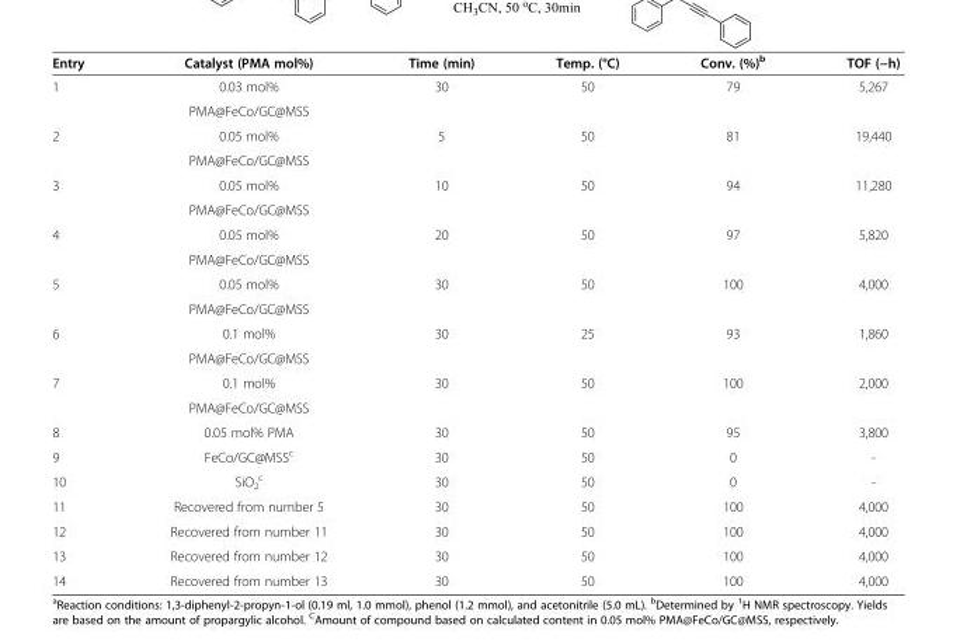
<table><thead><tr><td>Entry</td><td>Catalyst (PMA mol%)</td><td>Time (min)</td><td>Temp. (°C)</td><td>Conv. (%)<sup>b</sup></td><td>TOF (−h)</td></tr></thead><tbody><tr><td rowspan="2">1</td><td>0.03 mol%</td><td rowspan="2">30</td><td rowspan="2">50</td><td rowspan="2">79</td><td rowspan="2">5,267</td></tr><tr><td>PMA@FeCo/GC@MSS</td></tr><tr><td rowspan="2">2</td><td>0.05 mol%</td><td rowspan="2">5</td><td rowspan="2">50</td><td rowspan="2">81</td><td rowspan="2">19,440</td></tr><tr><td>PMA@FeCo/GC@MSS</td></tr><tr><td rowspan="2">3</td><td>0.05 mol%</td><td rowspan="2">10</td><td rowspan="2">50</td><td rowspan="2">94</td><td rowspan="2">11,280</td></tr><tr><td>PMA@FeCo/GC@MSS</td></tr><tr><td rowspan="2">4</td><td>0.05 mol%</td><td rowspan="2">20</td><td rowspan="2">50</td><td rowspan="2">97</td><td rowspan="2">5,820</td></tr><tr><td>PMA@FeCo/GC@MSS</td></tr><tr><td rowspan="2">5</td><td>0.05 mol%</td><td rowspan="2">30</td><td rowspan="2">50</td><td rowspan="2">100</td><td rowspan="2">4,000</td></tr><tr><td>PMA@FeCo/GC@MSS</td></tr><tr><td rowspan="2">6</td><td>0.1 mol%</td><td rowspan="2">30</td><td rowspan="2">25</td><td rowspan="2">93</td><td rowspan="2">1,860</td></tr><tr><td>PMA@FeCo/GC@MSS</td></tr><tr><td rowspan="2">7</td><td>0.1 mol%</td><td rowspan="2">30</td><td rowspan="2">50</td><td rowspan="2">100</td><td rowspan="2">2,000</td></tr><tr><td>PMA@FeCo/GC@MSS</td></tr><tr><td>8</td><td>0.05 mol% PMA</td><td>30</td><td>50</td><td>95</td><td>3,800</td></tr><tr><td>9</td><td>FeCo/GC@MSS<sup>c</sup></td><td>30</td><td>50</td><td>0</td><td>-</td></tr><tr><td>10</td><td>SiO<sub>2</sub> <sup>c</sup></td><td>30</td><td>50</td><td>0</td><td>-</td></tr><tr><td>11</td><td>Recovered from number 5</td><td>30</td><td>50</td><td>100</td><td>4,000</td></tr><tr><td>12</td><td>Recovered from number 11</td><td>30</td><td>50</td><td>100</td><td>4,000</td></tr><tr><td>13</td><td>Recovered from number 12</td><td>30</td><td>50</td><td>100</td><td>4,000</td></tr><tr><td>14</td><td>Recovered from number 13</td><td>30</td><td>50</td><td>100</td><td>4,000</td></tr></tbody></table>